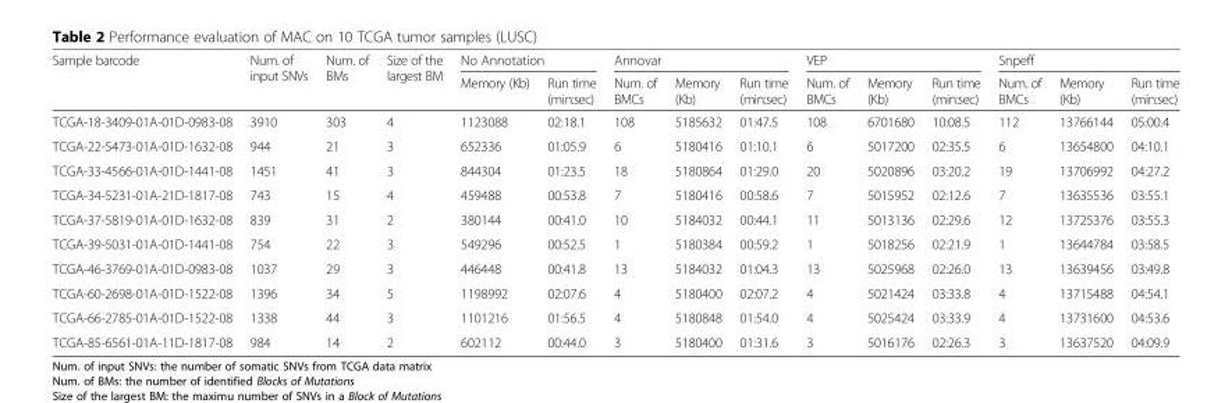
<table><thead><tr><td rowspan="2">Sample barcode</td><td rowspan="2">Num. of input SNVs</td><td rowspan="2">Num. of BMs</td><td rowspan="2">Size of the largest BM</td><td colspan="2">No Annotation</td><td colspan="3">Annovar</td><td colspan="3">VEP</td><td colspan="3">Snpeff</td></tr><tr><td>Memory (Kb)</td><td>Run time (min:sec)</td><td>Num. of BMCs</td><td>Memory (Kb)</td><td>Run time (min:sec)</td><td>Num. of BMCs</td><td>Memory (Kb)</td><td>Run time (min:sec)</td><td>Num. of BMCs</td><td>Memory (Kb)</td><td>Run time (min:sec)</td></tr></thead><tbody><tr><td>TCGA-18-3409-01A-01D-0983-08</td><td>3910</td><td>303</td><td>4</td><td>1123088</td><td>02:18.1</td><td>108</td><td>5185632</td><td>01:47.5</td><td>108</td><td>6701680</td><td>10:08.5</td><td>112</td><td>13766144</td><td>05:00.4</td></tr><tr><td>TCGA-22-5473-01A-01D-1632-08</td><td>944</td><td>21</td><td>3</td><td>652336</td><td>01:05.9</td><td>6</td><td>5180416</td><td>01:10.1</td><td>6</td><td>5017200</td><td>02:35.5</td><td>6</td><td>13654800</td><td>04:10.1</td></tr><tr><td>TCGA-33-4566-01A-01D-1441-08</td><td>1451</td><td>41</td><td>3</td><td>844304</td><td>01:23.5</td><td>18</td><td>5180864</td><td>01:29.0</td><td>20</td><td>5020896</td><td>03:20.2</td><td>19</td><td>13706992</td><td>04:27.2</td></tr><tr><td>TCGA-34-5231-01A-21D-1817-08</td><td>743</td><td>15</td><td>4</td><td>459488</td><td>00:53.8</td><td>7</td><td>5180416</td><td>00:58.6</td><td>7</td><td>5015952</td><td>02:12.6</td><td>7</td><td>13635536</td><td>03:55.1</td></tr><tr><td>TCGA-37-5819-01A-01D-1632-08</td><td>839</td><td>31</td><td>2</td><td>380144</td><td>00:41.0</td><td>10</td><td>5184032</td><td>00:44.1</td><td>11</td><td>5013136</td><td>02:29.6</td><td>12</td><td>13725376</td><td>03:55.3</td></tr><tr><td>TCGA-39-5031-01A-01D-1441-08</td><td>754</td><td>22</td><td>3</td><td>549296</td><td>00:52.5</td><td>1</td><td>5180384</td><td>00:59.2</td><td>1</td><td>5018256</td><td>02:21.9</td><td>1</td><td>13644784</td><td>03:58.5</td></tr><tr><td>TCGA-46-3769-01A-01D-0983-08</td><td>1037</td><td>29</td><td>3</td><td>446448</td><td>00:41.8</td><td>13</td><td>5184032</td><td>01:04.3</td><td>13</td><td>5025968</td><td>02:26.0</td><td>13</td><td>13639456</td><td>03:49.8</td></tr><tr><td>TCGA-60-2698-01A-01D-1522-08</td><td>1396</td><td>34</td><td>5</td><td>1198992</td><td>02:07.6</td><td>4</td><td>5180400</td><td>02:07.2</td><td>4</td><td>5021424</td><td>03:33.8</td><td>4</td><td>13715488</td><td>04:54.1</td></tr><tr><td>TCGA-66-2785-01A-01D-1522-08</td><td>1338</td><td>44</td><td>3</td><td>1101216</td><td>01:56.5</td><td>4</td><td>5180848</td><td>01:54.0</td><td>4</td><td>5025424</td><td>03:33.9</td><td>4</td><td>13731600</td><td>04:53.6</td></tr><tr><td>TCGA-85-6561-01A-11D-1817-08</td><td>984</td><td>14</td><td>2</td><td>602112</td><td>00:44.0</td><td>3</td><td>5180400</td><td>01:31.6</td><td>3</td><td>5016176</td><td>02:26.3</td><td>3</td><td>13637520</td><td>04:09.9</td></tr></tbody></table>